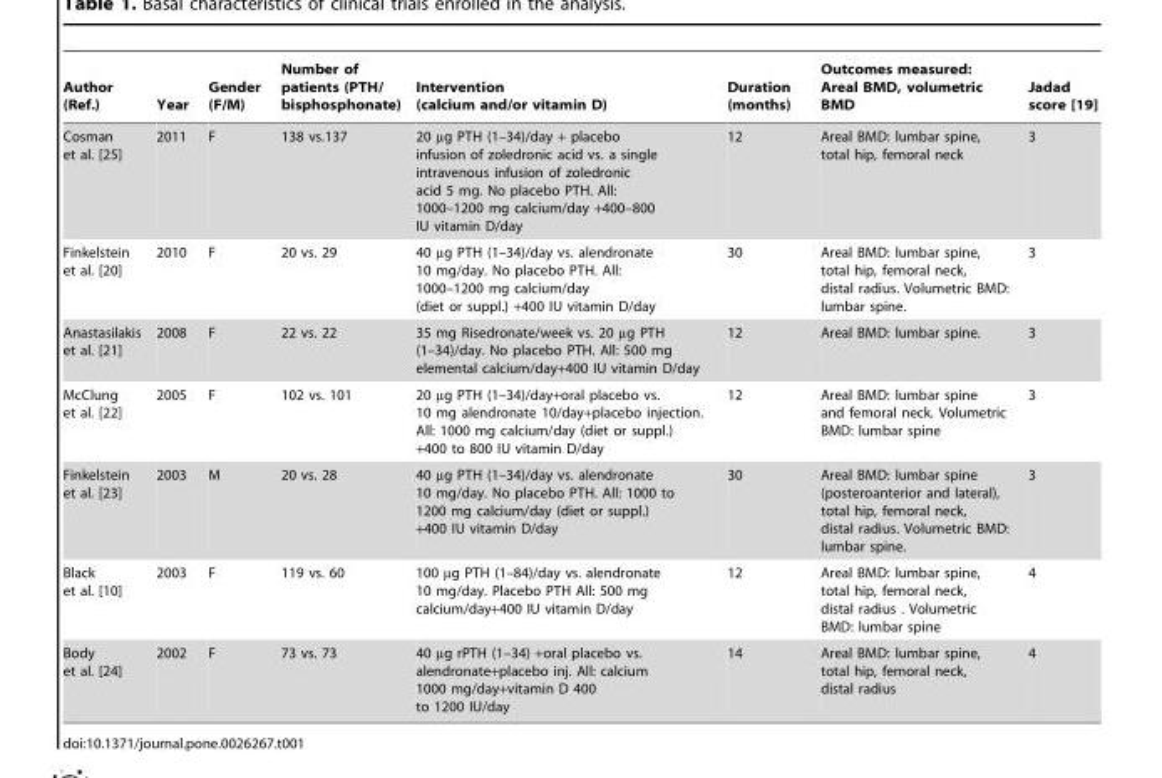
<table><thead><tr><td>Author (Ref.)</td><td>Year</td><td>Gender (F/M)</td><td>Number of patients (PTH/ bisphosphonate)</td><td>Intervention (calcium and/or vitamin D)</td><td>Duration (months)</td><td>Outcomes measured: Areal BMD, volumetric BMD</td><td>Jadad score [19]</td></tr></thead><tbody><tr><td>Cosman et al. [25]</td><td>2011</td><td>F</td><td>138 vs.137</td><td>20 µg PTH (1–34)/day + placebo infusion of zoledronic acid vs. a single intravenous infusion of zoledronic acid 5 mg. No placebo PTH. All: 1000–1200 mg calcium/day +400–800 IU vitamin D/day</td><td>12</td><td>Areal BMD: lumbar spine, total hip, femoral neck</td><td>3</td></tr><tr><td>Finkelstein et al. [20]</td><td>2010</td><td>F</td><td>20 vs. 29</td><td>40 µg PTH (1–34)/day vs. alendronate 10 mg/day. No placebo PTH. All: 1000–1200 mg calcium/day (diet or suppl.) +400 IU vitamin D/day</td><td>30</td><td>Areal BMD: lumbar spine, total hip, femoral neck, distal radius. Volumetric BMD: lumbar spine.</td><td>3</td></tr><tr><td>Anastasilakis et al. [21]</td><td>2008</td><td>F</td><td>22 vs. 22</td><td>35 mg Risedronate/week vs. 20 µg PTH (1–34)/day. No placebo PTH. All: 500 mg elemental calcium/day+400 IU vitamin D/day</td><td>12</td><td>Areal BMD: lumbar spine.</td><td>3</td></tr><tr><td>McClung et al. [22]</td><td>2005</td><td>F</td><td>102 vs. 101</td><td>20 µg PTH (1–34)/day+oral placebo vs. 10 mg alendronate 10/day+placebo injection. All: 1000 mg calcium/day (diet or suppl.) +400 to 800 IU vitamin D/day</td><td>12</td><td>Areal BMD: lumbar spine and femoral neck. Volumetric BMD: lumbar spine</td><td>3</td></tr><tr><td>Finkelstein et al. [23]</td><td>2003</td><td>M</td><td>20 vs. 28</td><td>40 µg PTH (1–34)/day vs. alendronate 10 mg/day. No placebo PTH. All: 1000 to 1200 mg calcium/day (diet or suppl.) +400 IU vitamin D/day</td><td>30</td><td>Areal BMD: lumbar spine (posteroanterior and lateral), total hip, femoral neck, distal radius. Volumetric BMD: lumbar spine.</td><td>3</td></tr><tr><td>Black et al. [10]</td><td>2003</td><td>F</td><td>119 vs. 60</td><td>100 µg PTH (1–84)/day vs. alendronate 10 mg/day. Placebo PTH All: 500 mg calcium/day+400 IU vitamin D/day</td><td>12</td><td>Areal BMD: lumbar spine, total hip, femoral neck, distal radius . Volumetric BMD: lumbar spine</td><td>4</td></tr><tr><td>Body et al. [24]</td><td>2002</td><td>F</td><td>73 vs. 73</td><td>40 µg rPTH (1–34) +oral placebo vs. alendronate+placebo inj. All: calcium 1000 mg/day+vitamin D 400 to 1200 IU/day</td><td>14</td><td>Areal BMD: lumbar spine, total hip, femoral neck, distal radius</td><td>4</td></tr></tbody></table>